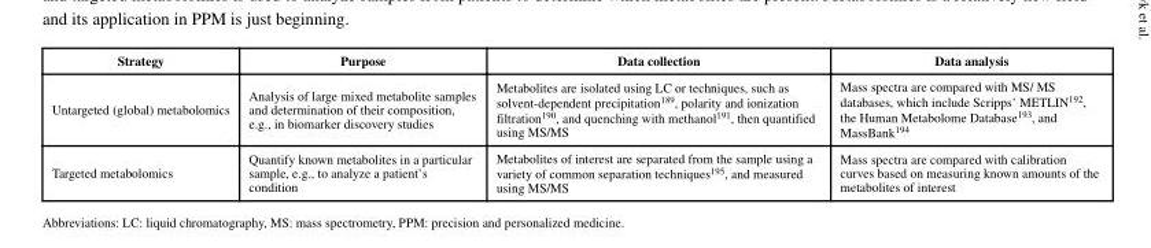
<table><thead><tr><td>Strategy</td><td>Purpose</td><td>Data collection</td><td>Data analysis</td></tr></thead><tbody><tr><td>Untargeted (global) metabolomics</td><td>Analysis of large mixed metabolite samples and determination of their composition, e.g., in biomarker discovery studies</td><td>Metabolites are isolated using LC or techniques, such as solvent-dependent precipitation<sup>189</sup>, polarity and ionization filtration<sup>190</sup>, and quenching with methanol<sup>191</sup>, then quantified using MS/MS</td><td>Mass spectra are compared with MS/ MS databases, which include Scripps’ METLIN<sup>192</sup>, the Human Metabolome Database<sup>193</sup>, and MassBank<sup>194</sup></td></tr><tr><td>Targeted metabolomics</td><td>Quantify known metabolites in a particular sample, e.g., to analyze a patient’s condition</td><td>Metabolites of interest are separated from the sample using a variety of common separation techniques<sup>195</sup>, and measured using MS/MS</td><td>Mass spectra are compared with calibration curves based on measuring known amounts of the metabolites of interest</td></tr></tbody></table>